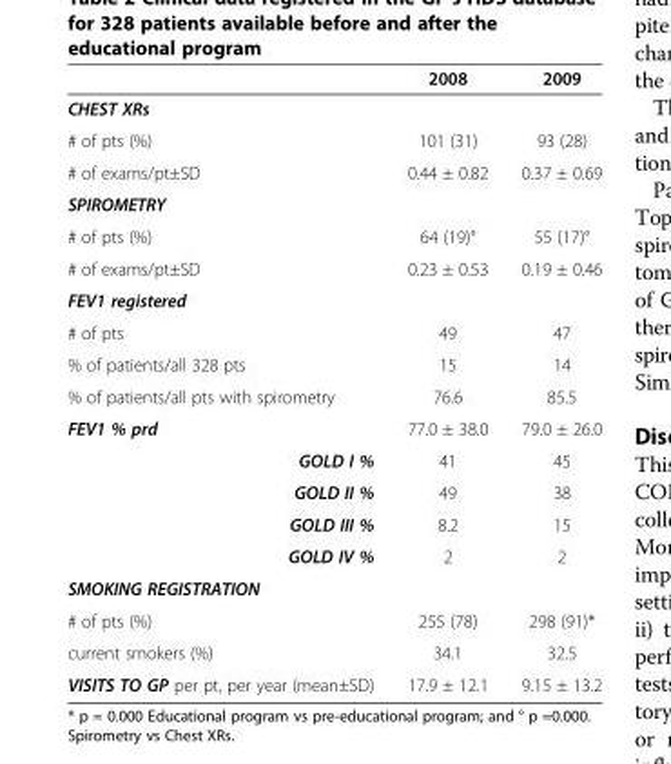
<table><thead><tr><td></td><td>2008</td><td>2009</td></tr></thead><tbody><tr><td colspan="3">CHEST XRs</td></tr><tr><td># of pts (%)</td><td>101 (31)</td><td>93 (28)</td></tr><tr><td># of exams/pt±SD</td><td>0.44 ± 0.82</td><td>0.37 ± 0.69</td></tr><tr><td colspan="3">SPIROMETRY</td></tr><tr><td># of pts (%)</td><td>64 (19)°</td><td>55 (17)°</td></tr><tr><td># of exams/pt±SD</td><td>0.23 ± 0.53</td><td>0.19 ± 0.46</td></tr><tr><td colspan="3">FEV1 registered</td></tr><tr><td># of pts</td><td>49</td><td>47</td></tr><tr><td>% of patients/all 328 pts</td><td>15</td><td>14</td></tr><tr><td>% of patients/all pts with spirometry</td><td>76.6</td><td>85.5</td></tr><tr><td>FEV1 % prd</td><td>77.0 ± 38.0</td><td>79.0 ± 26.0</td></tr><tr><td>GOLD I %</td><td>41</td><td>45</td></tr><tr><td>GOLD II %</td><td>49</td><td>38</td></tr><tr><td>GOLD III %</td><td>8.2</td><td>15</td></tr><tr><td>GOLD IV %</td><td>2</td><td>2</td></tr><tr><td colspan="3">SMOKING REGISTRATION</td></tr><tr><td># of pts (%)</td><td>255 (78)</td><td>298 (91)*</td></tr><tr><td>current smokers (%)</td><td>34.1</td><td>32.5</td></tr><tr><td>VISITS TO GP per pt, per year (mean±SD)</td><td>17.9 ± 12.1</td><td>9.15 ± 13.2</td></tr></tbody></table>